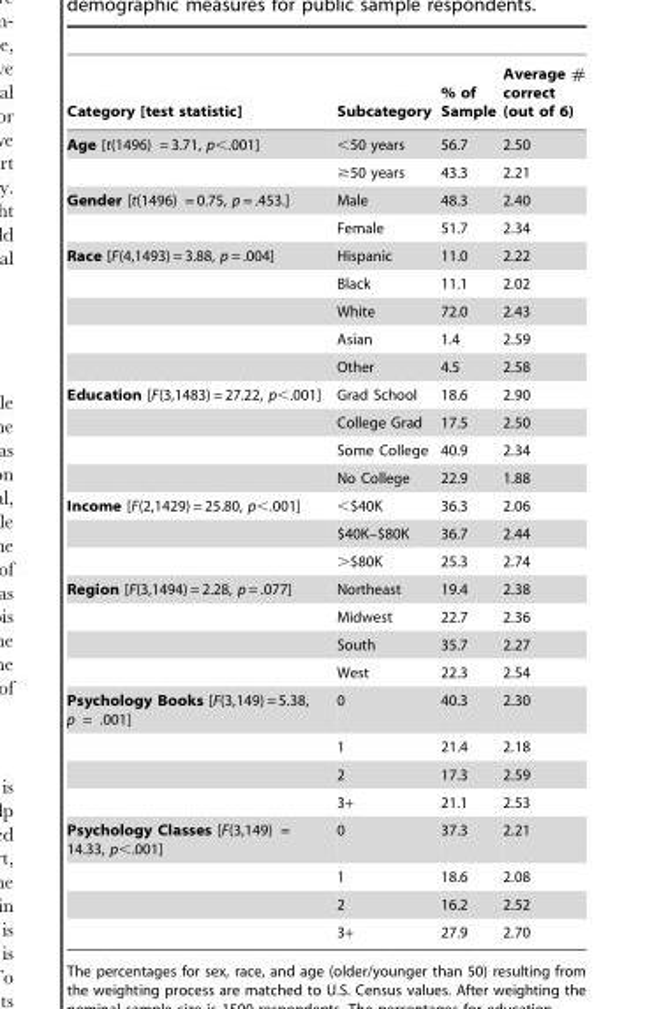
<table><thead><tr><td>Category [test statistic]</td><td>Subcategory</td><td>% of Sample</td><td>Average # correct (out of 6)</td></tr></thead><tbody><tr><td rowspan="2">Age [t(1496) = 3.71, p&lt;.001]</td><td>&lt;50 years</td><td>56.7</td><td>2.50</td></tr><tr><td>≥50 years</td><td>43.3</td><td>2.21</td></tr><tr><td rowspan="2">Gender [t(1496) = 0.75, p = .453.]</td><td>Male</td><td>48.3</td><td>2.40</td></tr><tr><td>Female</td><td>51.7</td><td>2.34</td></tr><tr><td rowspan="5">Race [F(4,1493) = 3.88, p = .004]</td><td>Hispanic</td><td>11.0</td><td>2.22</td></tr><tr><td>Black</td><td>11.1</td><td>2.02</td></tr><tr><td>White</td><td>72.0</td><td>2.43</td></tr><tr><td>Asian</td><td>1.4</td><td>2.59</td></tr><tr><td>Other</td><td>4.5</td><td>2.58</td></tr><tr><td rowspan="4">Education [F(3,1483) = 27.22, p&lt;.001]</td><td>Grad School</td><td>18.6</td><td>2.90</td></tr><tr><td>College Grad</td><td>17.5</td><td>2.50</td></tr><tr><td>Some College</td><td>40.9</td><td>2.34</td></tr><tr><td>No College</td><td>22.9</td><td>1.88</td></tr><tr><td rowspan="3">Income [F(2,1429) = 25.80, p&lt;.001]</td><td>&lt;$40K</td><td>36.3</td><td>2.06</td></tr><tr><td>$40K–$80K</td><td>36.7</td><td>2.44</td></tr><tr><td>&gt;$80K</td><td>25.3</td><td>2.74</td></tr><tr><td rowspan="4">Region [F(3,1494) = 2.28, p = .077]</td><td>Northeast</td><td>19.4</td><td>2.38</td></tr><tr><td>Midwest</td><td>22.7</td><td>2.36</td></tr><tr><td>South</td><td>35.7</td><td>2.27</td></tr><tr><td>West</td><td>22.3</td><td>2.54</td></tr><tr><td rowspan="4">Psychology Books [F(3,149) = 5.38, p = .001]</td><td>0</td><td>40.3</td><td>2.30</td></tr><tr><td>1</td><td>21.4</td><td>2.18</td></tr><tr><td>2</td><td>17.3</td><td>2.59</td></tr><tr><td>3+</td><td>21.1</td><td>2.53</td></tr><tr><td rowspan="4">Psychology Classes [F(3,149) = 14.33, p&lt;.001]</td><td>0</td><td>37.3</td><td>2.21</td></tr><tr><td>1</td><td>18.6</td><td>2.08</td></tr><tr><td>2</td><td>16.2</td><td>2.52</td></tr><tr><td>3+</td><td>27.9</td><td>2.70</td></tr></tbody></table>